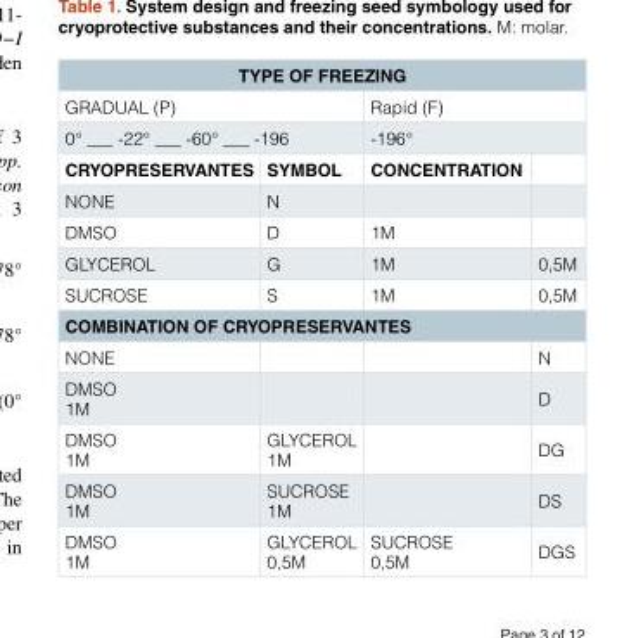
<table><thead><tr><td colspan="4">TYPE OF FREEZING</td></tr><tr><td rowspan="2" colspan="2">GRADUAL (P) 0° ___ -22° ___ -60° ___ -196</td><td rowspan="2" colspan="2">Rapid (F) -196°</td></tr><tr></tr><tr><td>CRYOPRESERVANTES</td><td>SYMBOL</td><td>CONCENTRATION</td><td></td></tr></thead><tbody><tr><td>NONE</td><td>N</td><td></td><td></td></tr><tr><td>DMSO</td><td>D</td><td>1M</td><td></td></tr><tr><td>GLYCEROL</td><td>G</td><td>1M</td><td>0,5M</td></tr><tr><td>SUCROSE</td><td>S</td><td>1M</td><td>0,5M</td></tr><tr><td colspan="4">COMBINATION OF CRYOPRESERVANTES</td></tr><tr><td>NONE</td><td></td><td></td><td>N</td></tr><tr><td>DMSO 1M</td><td></td><td></td><td>D</td></tr><tr><td>DMSO 1M</td><td>GLYCEROL 1M</td><td></td><td>DG</td></tr><tr><td>DMSO 1M</td><td>SUCROSE 1M</td><td></td><td>DS</td></tr><tr><td>DMSO 1M</td><td>GLYCEROL 0,5M</td><td>SUCROSE 0,5M</td><td>DGS</td></tr></tbody></table>